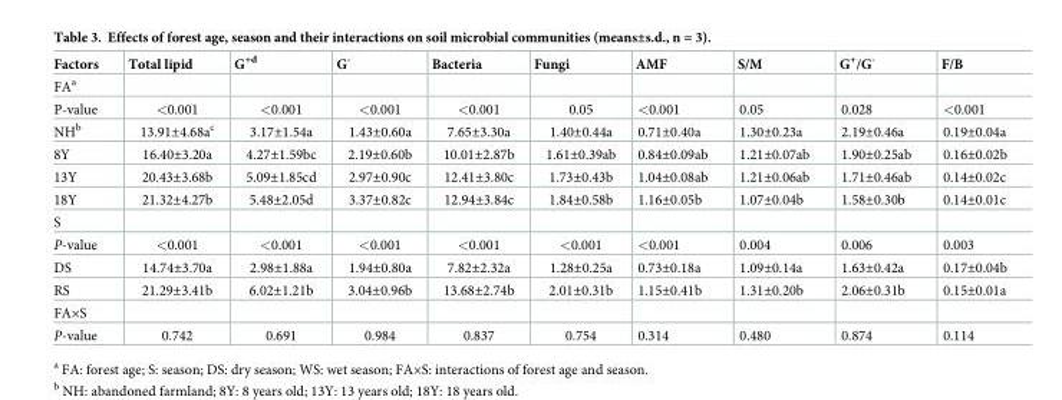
<table><thead><tr><td>Factors</td><td>Total lipid</td><td>G<sup>+d</sup></td><td>G<sup>-</sup></td><td>Bacteria</td><td>Fungi</td><td>AMF</td><td>S/M</td><td>G<sup>+</sup>/G<sup>-</sup></td><td>F/B</td></tr></thead><tbody><tr><td colspan="10">FA<sup>a</sup></td></tr><tr><td>P-value</td><td>&lt;0.001</td><td>&lt;0.001</td><td>&lt;0.001</td><td>&lt;0.001</td><td>0.05</td><td>&lt;0.001</td><td>0.05</td><td>0.028</td><td>&lt;0.001</td></tr><tr><td>NH<sup>b</sup></td><td>13.91±4.68a<sup>c</sup></td><td>3.17±1.54a</td><td>1.43±0.60a</td><td>7.65±3.30a</td><td>1.40±0.44a</td><td>0.71±0.40a</td><td>1.30±0.23a</td><td>2.19±0.46a</td><td>0.19±0.04a</td></tr><tr><td>8Y</td><td>16.40±3.20a</td><td>4.27±1.59bc</td><td>2.19±0.60b</td><td>10.01±2.87b</td><td>1.61±0.39ab</td><td>0.84±0.09ab</td><td>1.21±0.07ab</td><td>1.90±0.25ab</td><td>0.16±0.02b</td></tr><tr><td>13Y</td><td>20.43±3.68b</td><td>5.09±1.85cd</td><td>2.97±0.90c</td><td>12.41±3.80c</td><td>1.73±0.43b</td><td>1.04±0.08ab</td><td>1.21±0.06ab</td><td>1.71±0.46ab</td><td>0.14±0.02c</td></tr><tr><td>18Y</td><td>21.32±4.27b</td><td>5.48±2.05d</td><td>3.37±0.82c</td><td>12.94±3.84c</td><td>1.84±0.58b</td><td>1.16±0.05b</td><td>1.07±0.04b</td><td>1.58±0.30b</td><td>0.14±0.01c</td></tr><tr><td colspan="10">S</td></tr><tr><td>P-value</td><td>&lt;0.001</td><td>&lt;0.001</td><td>&lt;0.001</td><td>&lt;0.001</td><td>&lt;0.001</td><td>&lt;0.001</td><td>0.004</td><td>0.006</td><td>0.003</td></tr><tr><td>DS</td><td>14.74±3.70a</td><td>2.98±1.88a</td><td>1.94±0.80a</td><td>7.82±2.32a</td><td>1.28±0.25a</td><td>0.73±0.18a</td><td>1.09±0.14a</td><td>1.63±0.42a</td><td>0.17±0.04b</td></tr><tr><td>RS</td><td>21.29±3.41b</td><td>6.02±1.21b</td><td>3.04±0.96b</td><td>13.68±2.74b</td><td>2.01±0.31b</td><td>1.15±0.41b</td><td>1.31±0.20b</td><td>2.06±0.31b</td><td>0.15±0.01a</td></tr><tr><td colspan="10">FA×S</td></tr><tr><td>P-value</td><td>0.742</td><td>0.691</td><td>0.984</td><td>0.837</td><td>0.754</td><td>0.314</td><td>0.480</td><td>0.874</td><td>0.114</td></tr></tbody></table>